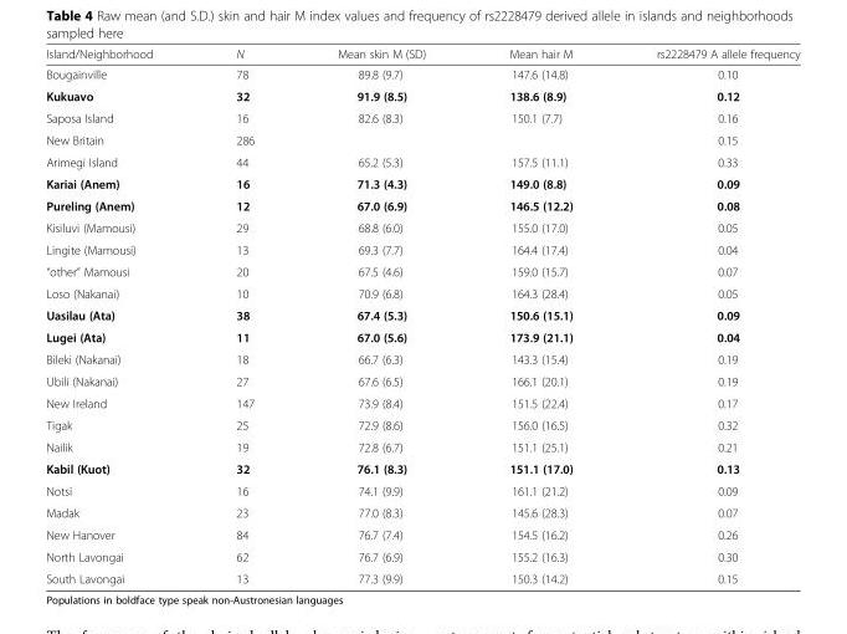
<table><thead><tr><td>Island/Neighborhood</td><td>N</td><td>Mean skin M (SD)</td><td>Mean hair M</td><td>rs2228479 A allele frequency</td></tr></thead><tbody><tr><td>Bougainville</td><td>78</td><td>89.8 (9.7)</td><td>147.6 (14.8)</td><td>0.10</td></tr><tr><td>Kukuavo</td><td>32</td><td>91.9 (8.5)</td><td>138.6 (8.9)</td><td>0.12</td></tr><tr><td>Saposa Island</td><td>16</td><td>82.6 (8.3)</td><td>150.1 (7.7)</td><td>0.16</td></tr><tr><td>New Britain</td><td>286</td><td></td><td></td><td>0.15</td></tr><tr><td>Arimegi Island</td><td>44</td><td>65.2 (5.3)</td><td>157.5 (11.1)</td><td>0.33</td></tr><tr><td>Kariai (Anem)</td><td>16</td><td>71.3 (4.3)</td><td>149.0 (8.8)</td><td>0.09</td></tr><tr><td>Pureling (Anem)</td><td>12</td><td>67.0 (6.9)</td><td>146.5 (12.2)</td><td>0.08</td></tr><tr><td>Kisiluvi (Mamousi)</td><td>29</td><td>68.8 (6.0)</td><td>155.0 (17.0)</td><td>0.05</td></tr><tr><td>Lingite (Mamousi)</td><td>13</td><td>69.3 (7.7)</td><td>164.4 (17.4)</td><td>0.04</td></tr><tr><td>“other” Mamousi</td><td>20</td><td>67.5 (4.6)</td><td>159.0 (15.7)</td><td>0.07</td></tr><tr><td>Loso (Nakanai)</td><td>10</td><td>70.9 (6.8)</td><td>164.3 (28.4)</td><td>0.05</td></tr><tr><td>Uasilau (Ata)</td><td>38</td><td>67.4 (5.3)</td><td>150.6 (15.1)</td><td>0.09</td></tr><tr><td>Lugei (Ata)</td><td>11</td><td>67.0 (5.6)</td><td>173.9 (21.1)</td><td>0.04</td></tr><tr><td>Bileki (Nakanai)</td><td>18</td><td>66.7 (6.3)</td><td>143.3 (15.4)</td><td>0.19</td></tr><tr><td>Ubili (Nakanai)</td><td>27</td><td>67.6 (6.5)</td><td>166.1 (20.1)</td><td>0.19</td></tr><tr><td>New Ireland</td><td>147</td><td>73.9 (8.4)</td><td>151.5 (22.4)</td><td>0.17</td></tr><tr><td>Tigak</td><td>25</td><td>72.9 (8.6)</td><td>156.0 (16.5)</td><td>0.32</td></tr><tr><td>Nailik</td><td>19</td><td>72.8 (6.7)</td><td>151.1 (25.1)</td><td>0.21</td></tr><tr><td>Kabil (Kuot)</td><td>32</td><td>76.1 (8.3)</td><td>151.1 (17.0)</td><td>0.13</td></tr><tr><td>Notsi</td><td>16</td><td>74.1 (9.9)</td><td>161.1 (21.2)</td><td>0.09</td></tr><tr><td>Madak</td><td>23</td><td>77.0 (8.3)</td><td>145.6 (28.3)</td><td>0.07</td></tr><tr><td>New Hanover</td><td>84</td><td>76.7 (7.4)</td><td>154.5 (16.2)</td><td>0.26</td></tr><tr><td>North Lavongai</td><td>62</td><td>76.7 (6.9)</td><td>155.2 (16.3)</td><td>0.30</td></tr><tr><td>South Lavongai</td><td>13</td><td>77.3 (9.9)</td><td>150.3 (14.2)</td><td>0.15</td></tr></tbody></table>